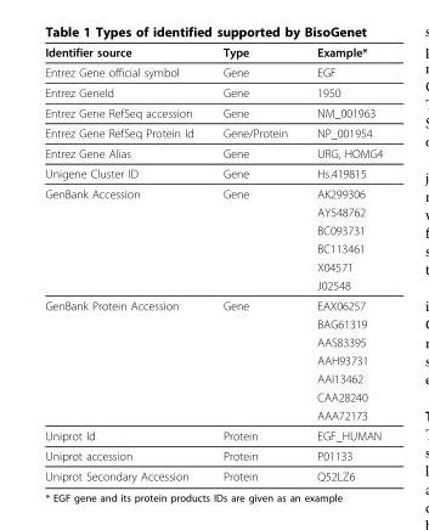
<table><thead><tr><td>Identifier source</td><td>Type</td><td>Example*</td></tr></thead><tbody><tr><td>Entrez Gene official symbol</td><td>Gene</td><td>EGF</td></tr><tr><td>Entrez GeneId</td><td>Gene</td><td>1950</td></tr><tr><td>Entrez Gene RefSeq accession</td><td>Gene</td><td>NM_001963</td></tr><tr><td>Entrez Gene RefSeq Protein Id</td><td>Gene/Protein</td><td>NP_001954</td></tr><tr><td>Entrez Gene Alias</td><td>Gene</td><td>URG, HOMG4</td></tr><tr><td>Unigene Cluster ID</td><td>Gene</td><td>Hs.419815</td></tr><tr><td rowspan="6">GenBank Accession</td><td>Gene</td><td>AK299306</td></tr><tr><td></td><td>AY548762</td></tr><tr><td></td><td>BC093731</td></tr><tr><td></td><td>BC113461</td></tr><tr><td></td><td>X04571</td></tr><tr><td></td><td>J02548</td></tr><tr><td rowspan="7">GenBank Protein Accession</td><td>Gene</td><td>EAX06257</td></tr><tr><td></td><td>BAG61319</td></tr><tr><td></td><td>AAS83395</td></tr><tr><td></td><td>AAH93731</td></tr><tr><td></td><td>AAI13462</td></tr><tr><td></td><td>CAA28240</td></tr><tr><td></td><td>AAA72173</td></tr><tr><td>Uniprot Id</td><td>Protein</td><td>EGF_HUMAN</td></tr><tr><td>Uniprot accession</td><td>Protein</td><td>P01133</td></tr><tr><td>Uniprot Secondary Accession</td><td>Protein</td><td>Q52LZ6</td></tr></tbody></table>